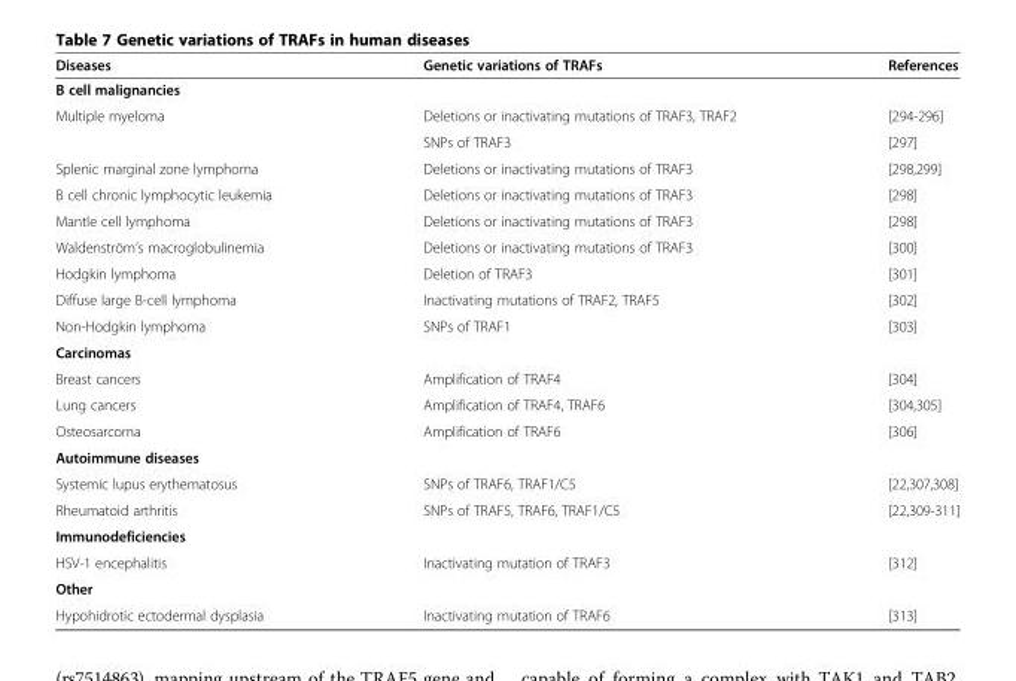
<table><thead><tr><td>Diseases</td><td>Genetic variations of TRAFs</td><td>References</td></tr></thead><tbody><tr><td colspan="3">B cell malignancies</td></tr><tr><td rowspan="2">Multiple myeloma</td><td>Deletions or inactivating mutations of TRAF3, TRAF2</td><td>[294-296]</td></tr><tr><td>SNPs of TRAF3</td><td>[297]</td></tr><tr><td>Splenic marginal zone lymphoma</td><td>Deletions or inactivating mutations of TRAF3</td><td>[298,299]</td></tr><tr><td>B cell chronic lymphocytic leukemia</td><td>Deletions or inactivating mutations of TRAF3</td><td>[298]</td></tr><tr><td>Mantle cell lymphoma</td><td>Deletions or inactivating mutations of TRAF3</td><td>[298]</td></tr><tr><td>Waldenström’s macroglobulinemia</td><td>Deletions or inactivating mutations of TRAF3</td><td>[300]</td></tr><tr><td>Hodgkin lymphoma</td><td>Deletion of TRAF3</td><td>[301]</td></tr><tr><td>Diffuse large B-cell lymphoma</td><td>Inactivating mutations of TRAF2, TRAF5</td><td>[302]</td></tr><tr><td>Non-Hodgkin lymphoma</td><td>SNPs of TRAF1</td><td>[303]</td></tr><tr><td colspan="3">Carcinomas</td></tr><tr><td>Breast cancers</td><td>Amplification of TRAF4</td><td>[304]</td></tr><tr><td>Lung cancers</td><td>Amplification of TRAF4, TRAF6</td><td>[304,305]</td></tr><tr><td>Osteosarcoma</td><td>Amplification of TRAF6</td><td>[306]</td></tr><tr><td colspan="3">Autoimmune diseases</td></tr><tr><td>Systemic lupus erythematosus</td><td>SNPs of TRAF6, TRAF1/C5</td><td>[22,307,308]</td></tr><tr><td>Rheumatoid arthritis</td><td>SNPs of TRAF5, TRAF6, TRAF1/C5</td><td>[22,309-311]</td></tr><tr><td colspan="3">Immunodeficiencies</td></tr><tr><td>HSV-1 encephalitis</td><td>Inactivating mutation of TRAF3</td><td>[312]</td></tr><tr><td colspan="3">Other</td></tr><tr><td>Hypohidrotic ectodermal dysplasia</td><td>Inactivating mutation of TRAF6</td><td>[313]</td></tr></tbody></table>